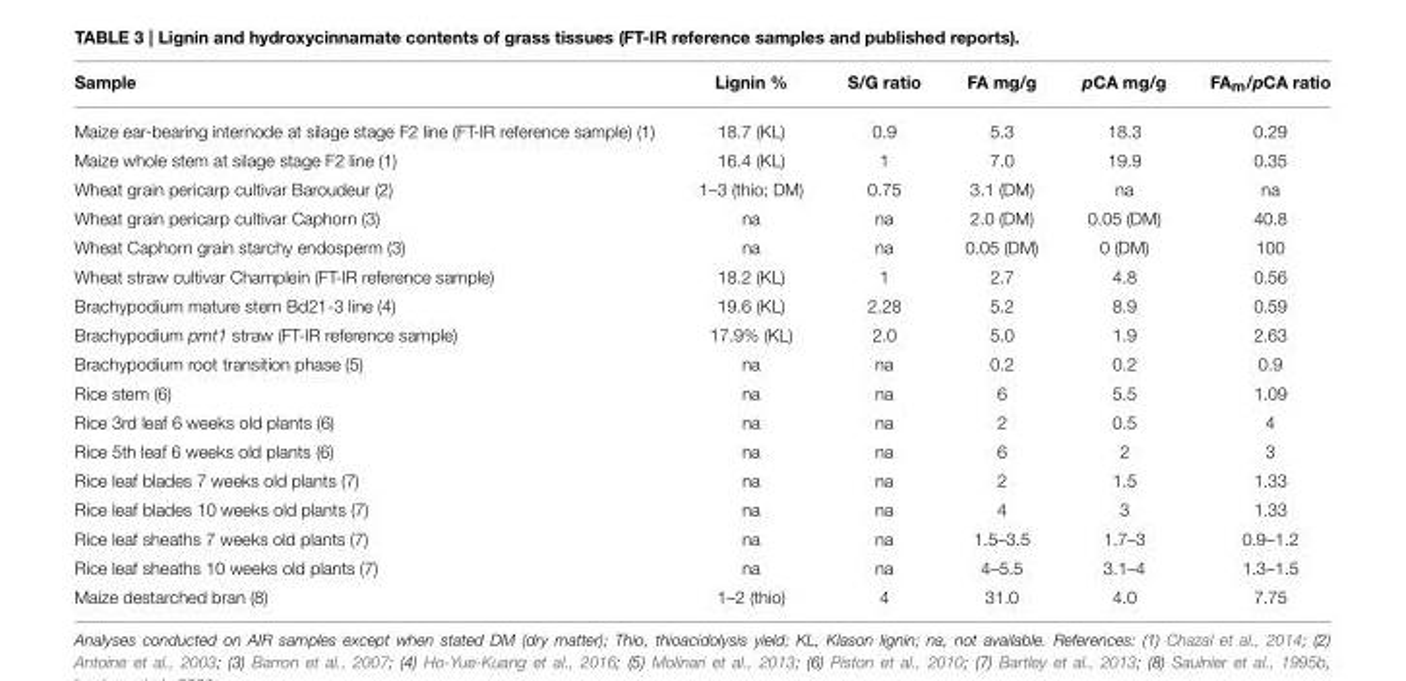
<table><thead><tr><td>Sample</td><td>Lignin %</td><td>S/G ratio</td><td>FA mg/g</td><td>pCA mg/g</td><td>FA<sub>m</sub>/pCA ratio</td></tr></thead><tbody><tr><td>Maize ear-bearing internode at silage stage F2 line (FT-IR reference sample) (1)</td><td>18.7 (KL)</td><td>0.9</td><td>5.3</td><td>18.3</td><td>0.29</td></tr><tr><td>Maize whole stem at silage stage F2 line (1)</td><td>16.4 (KL)</td><td>1</td><td>7.0</td><td>19.9</td><td>0.35</td></tr><tr><td>Wheat grain pericarp cultivar Baroudeur (2)</td><td>1–3 (thio; DM)</td><td>0.75</td><td>3.1 (DM)</td><td>na</td><td>na</td></tr><tr><td>Wheat grain pericarp cultivar Caphorn (3)</td><td>na</td><td>na</td><td>2.0 (DM)</td><td>0.05 (DM)</td><td>40.8</td></tr><tr><td>Wheat Caphorn grain starchy endosperm (3)</td><td>na</td><td>na</td><td>0.05 (DM)</td><td>0 (DM)</td><td>100</td></tr><tr><td>Wheat straw cultivar Champlein (FT-IR reference sample)</td><td>18.2 (KL)</td><td>1</td><td>2.7</td><td>4.8</td><td>0.56</td></tr><tr><td>Brachypodium mature stem Bd21-3 line (4)</td><td>19.6 (KL)</td><td>2.28</td><td>5.2</td><td>8.9</td><td>0.59</td></tr><tr><td>Brachypodium pmt1 straw (FT-IR reference sample)</td><td>17.9% (KL)</td><td>2.0</td><td>5.0</td><td>1.9</td><td>2.63</td></tr><tr><td>Brachypodium root transition phase (5)</td><td>na</td><td>na</td><td>0.2</td><td>0.2</td><td>0.9</td></tr><tr><td>Rice stem (6)</td><td>na</td><td>na</td><td>6</td><td>5.5</td><td>1.09</td></tr><tr><td>Rice 3rd leaf 6 weeks old plants (6)</td><td>na</td><td>na</td><td>2</td><td>0.5</td><td>4</td></tr><tr><td>Rice 5th leaf 6 weeks old plants (6)</td><td>na</td><td>na</td><td>6</td><td>2</td><td>3</td></tr><tr><td>Rice leaf blades 7 weeks old plants (7)</td><td>na</td><td>na</td><td>2</td><td>1.5</td><td>1.33</td></tr><tr><td>Rice leaf blades 10 weeks old plants (7)</td><td>na</td><td>na</td><td>4</td><td>3</td><td>1.33</td></tr><tr><td>Rice leaf sheaths 7 weeks old plants (7)</td><td>na</td><td>na</td><td>1.5–3.5</td><td>1.7–3</td><td>0.9–1.2</td></tr><tr><td>Rice leaf sheaths 10 weeks old plants (7)</td><td>na</td><td>na</td><td>4–5.5</td><td>3.1–4</td><td>1.3–1.5</td></tr><tr><td>Maize destarched bran (8)</td><td>1–2 (thio)</td><td>4</td><td>31.0</td><td>4.0</td><td>7.75</td></tr></tbody></table>